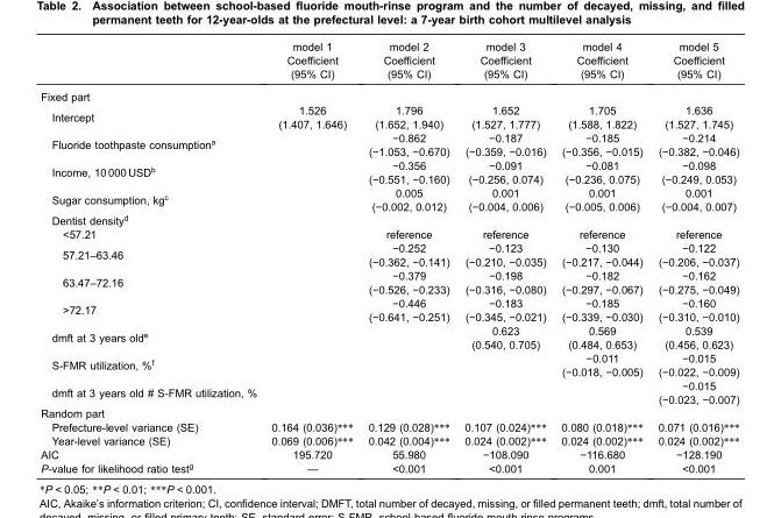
<table><thead><tr><td rowspan="2"></td><td rowspan="2">model 1 Coefficient (95% CI)</td><td rowspan="2">model 2 Coefficient (95% CI)</td><td rowspan="2">model 3 Coefficient (95% CI)</td><td rowspan="2">model 4 Coefficient (95% CI)</td><td rowspan="2">model 5 Coefficient (95% CI)</td></tr><tr></tr></thead><tbody><tr><td colspan="6">Fixed part</td></tr><tr><td>Intercept</td><td>1.526 (1.407, 1.646)</td><td>1.796 (1.652, 1.940)</td><td>1.652 (1.527, 1.777)</td><td>1.705 (1.588, 1.822)</td><td>1.636 (1.527, 1.745)</td></tr><tr><td>Fluoride toothpaste consumption<sup>a</sup></td><td></td><td>−0.862 (−1.053, −0.670)</td><td>−0.187 (−0.359, −0.016)</td><td>−0.185 (−0.356, −0.015)</td><td>−0.214 (−0.382, −0.046)</td></tr><tr><td>Income, 10 000 USD<sup>b</sup></td><td></td><td>−0.356 (−0.551, −0.160)</td><td>−0.091 (−0.256, 0.074)</td><td>−0.081 (−0.236, 0.075)</td><td>−0.098 (−0.249, 0.053)</td></tr><tr><td>Sugar consumption, kg<sup>c</sup></td><td></td><td>0.005 (−0.002, 0.012)</td><td>0.001 (−0.004, 0.006)</td><td>0.001 (−0.005, 0.006)</td><td>0.001 (−0.004, 0.007)</td></tr><tr><td colspan="6">Dentist density<sup>d</sup></td></tr><tr><td>&lt;57.21</td><td></td><td>reference</td><td>reference</td><td>reference</td><td>reference</td></tr><tr><td>57.21–63.46</td><td></td><td>−0.252 (−0.362, −0.141)</td><td>−0.123 (−0.210, −0.035)</td><td>−0.130 (−0.217, −0.044)</td><td>−0.122 (−0.206, −0.037)</td></tr><tr><td>63.47–72.16</td><td></td><td>−0.379 (−0.526, −0.233)</td><td>−0.198 (−0.316, −0.080)</td><td>−0.182 (−0.297, −0.067)</td><td>−0.162 (−0.275, −0.049)</td></tr><tr><td>&gt;72.17</td><td></td><td>−0.446 (−0.641, −0.251)</td><td>−0.183 (−0.345, −0.021)</td><td>−0.185 (−0.339, −0.030)</td><td>−0.160 (−0.310, −0.010)</td></tr><tr><td>dmft at 3 years old<sup>e</sup></td><td></td><td></td><td>0.623 (0.540, 0.705)</td><td>0.569 (0.484, 0.653)</td><td>0.539 (0.456, 0.623)</td></tr><tr><td>S-FMR utilization, %<sup>f</sup></td><td></td><td></td><td></td><td>−0.011 (−0.018, −0.005)</td><td>−0.015 (−0.022, −0.009)</td></tr><tr><td>dmft at 3 years old # S-FMR utilization, %</td><td></td><td></td><td></td><td></td><td>−0.015 (−0.023, −0.007)</td></tr><tr><td colspan="6">Random part</td></tr><tr><td>Prefecture-level variance (SE)</td><td>0.164 (0.036)***</td><td>0.129 (0.028)***</td><td>0.107 (0.024)***</td><td>0.080 (0.018)***</td><td>0.071 (0.016)***</td></tr><tr><td>Year-level variance (SE)</td><td>0.069 (0.006)***</td><td>0.042 (0.004)***</td><td>0.024 (0.002)***</td><td>0.024 (0.002)***</td><td>0.024 (0.002)***</td></tr><tr><td>AIC</td><td>195.720</td><td>55.980</td><td>−108.090</td><td>−116.680</td><td>−128.190</td></tr><tr><td>P-value for likelihood ratio test<sup>g</sup></td><td>—</td><td>&lt;0.001</td><td>&lt;0.001</td><td>0.001</td><td>&lt;0.001</td></tr></tbody></table>